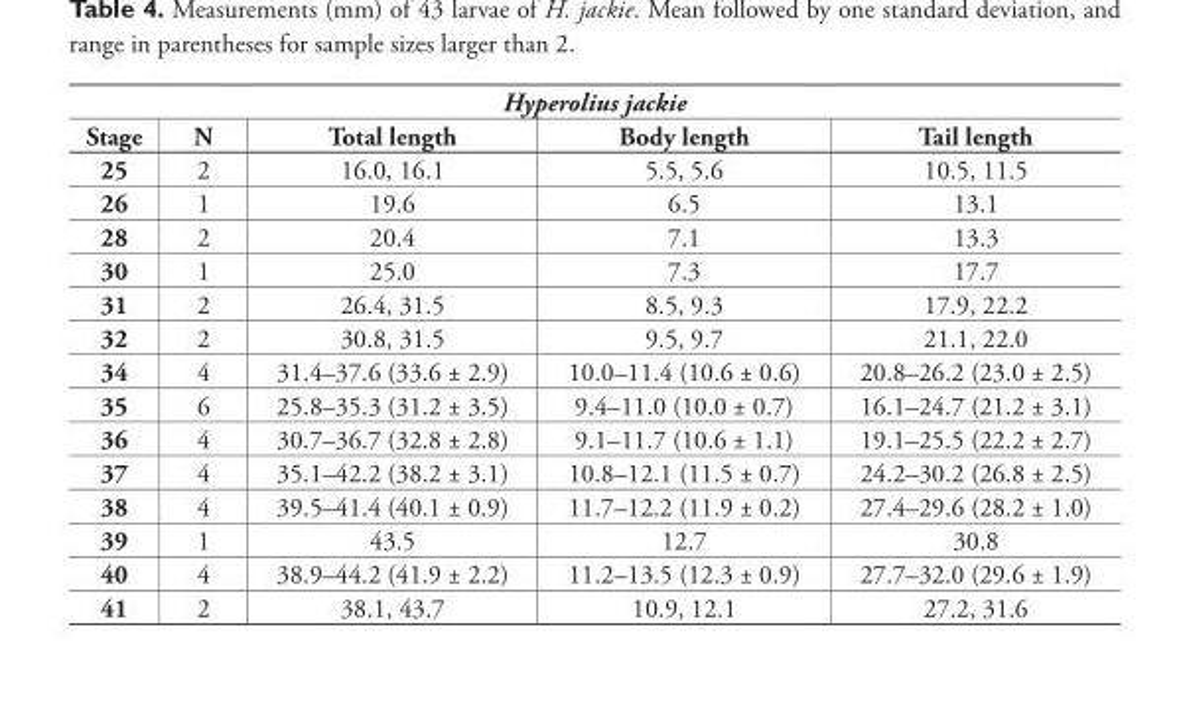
<table><thead><tr><td colspan="5">Hyperolius jackie</td></tr><tr><td>Stage</td><td>N</td><td>Total length</td><td>Body length</td><td>Tail length</td></tr></thead><tbody><tr><td>25</td><td>2</td><td>16.0, 16.1</td><td>5.5, 5.6</td><td>10.5, 11.5</td></tr><tr><td>26</td><td>1</td><td>19.6</td><td>6.5</td><td>13.1</td></tr><tr><td>28</td><td>2</td><td>20.4</td><td>7.1</td><td>13.3</td></tr><tr><td>30</td><td>1</td><td>25.0</td><td>7.3</td><td>17.7</td></tr><tr><td>31</td><td>2</td><td>26.4, 31.5</td><td>8.5, 9.3</td><td>17.9, 22.2</td></tr><tr><td>32</td><td>2</td><td>30.8, 31.5</td><td>9.5, 9.7</td><td>21.1, 22.0</td></tr><tr><td>34</td><td>4</td><td>31.4–37.6 (33.6 ± 2.9)</td><td>10.0–11.4 (10.6 ± 0.6)</td><td>20.8–26.2 (23.0 ± 2.5)</td></tr><tr><td>35</td><td>6</td><td>25.8–35.3 (31.2 ± 3.5)</td><td>9.4–11.0 (10.0 ± 0.7)</td><td>16.1–24.7 (21.2 ± 3.1)</td></tr><tr><td>36</td><td>4</td><td>30.7–36.7 (32.8 ± 2.8)</td><td>9.1–11.7 (10.6 ± 1.1)</td><td>19.1–25.5 (22.2 ± 2.7)</td></tr><tr><td>37</td><td>4</td><td>35.1–42.2 (38.2 ± 3.1)</td><td>10.8–12.1 (11.5 ± 0.7)</td><td>24.2–30.2 (26.8 ± 2.5)</td></tr><tr><td>38</td><td>4</td><td>39.5–41.4 (40.1 ± 0.9)</td><td>11.7–12.2 (11.9 ± 0.2)</td><td>27.4–29.6 (28.2 ± 1.0)</td></tr><tr><td>39</td><td>1</td><td>43.5</td><td>12.7</td><td>30.8</td></tr><tr><td>40</td><td>4</td><td>38.9–44.2 (41.9 ± 2.2)</td><td>11.2–13.5 (12.3 ± 0.9)</td><td>27.7–32.0 (29.6 ± 1.9)</td></tr><tr><td>41</td><td>2</td><td>38.1, 43.7</td><td>10.9, 12.1</td><td>27.2, 31.6</td></tr></tbody></table>